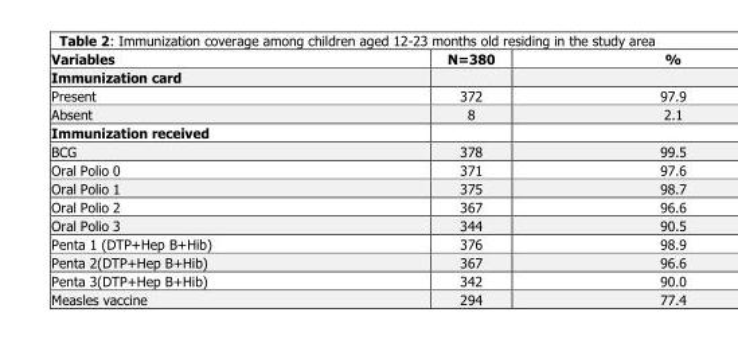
<table><thead><tr><td>Variables</td><td>N=380</td><td>%</td></tr></thead><tbody><tr><td colspan="3">Immunization card</td></tr><tr><td>Present</td><td>372</td><td>97.9</td></tr><tr><td>Absent</td><td>8</td><td>2.1</td></tr><tr><td colspan="3">Immunization received</td></tr><tr><td>BCG</td><td>378</td><td>99.5</td></tr><tr><td>Oral Polio 0</td><td>371</td><td>97.6</td></tr><tr><td>Oral Polio 1</td><td>375</td><td>98.7</td></tr><tr><td>Oral Polio 2</td><td>367</td><td>96.6</td></tr><tr><td>Oral Polio 3</td><td>344</td><td>90.5</td></tr><tr><td>Penta 1 (DTP+Hep B+Hib)</td><td>376</td><td>98.9</td></tr><tr><td>Penta 2(DTP+Hep B+Hib)</td><td>367</td><td>96.6</td></tr><tr><td>Penta 3(DTP+Hep B+Hib)</td><td>342</td><td>90.0</td></tr><tr><td>Measles vaccine</td><td>294</td><td>77.4</td></tr></tbody></table>